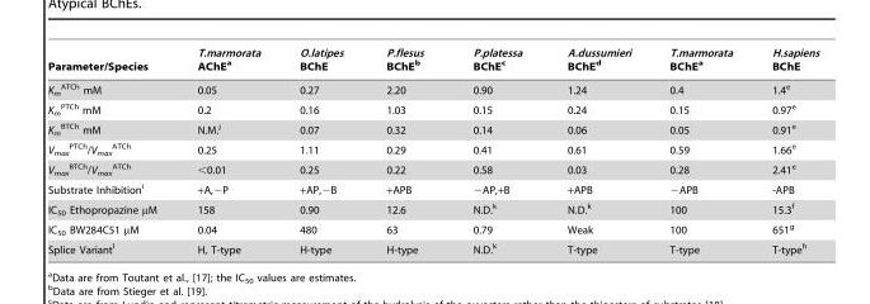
<table><thead><tr><td>Parameter/Species</td><td>T.marmorata AChE<sup>a</sup></td><td>O.latipes BChE</td><td>P.flesus BChE<sup>b</sup></td><td>P.platessa BChE<sup>c</sup></td><td>A.dussumieri BChE<sup>d</sup></td><td>T.marmorata BChE<sup>a</sup></td><td>H.sapiens BChE</td></tr></thead><tbody><tr><td>K<sub>m</sub> <sup>ATCh</sup> mM</td><td>0.05</td><td>0.27</td><td>2.20</td><td>0.90</td><td>1.24</td><td>0.4</td><td>1.4<sup>e</sup></td></tr><tr><td>K<sub>m</sub> <sup>PTCh</sup> mM</td><td>0.2</td><td>0.16</td><td>1.03</td><td>0.15</td><td>0.24</td><td>0.15</td><td>0.97<sup>e</sup></td></tr><tr><td>K<sub>m</sub> <sup>BTCh</sup> mM</td><td>N.M.<sup>j</sup></td><td>0.07</td><td>0.32</td><td>0.14</td><td>0.06</td><td>0.05</td><td>0.91<sup>e</sup></td></tr><tr><td>V<sub>max</sub> <sup>PTCh</sup>/V<sub>max</sub> <sup>ATCh</sup></td><td>0.25</td><td>1.11</td><td>0.29</td><td>0.41</td><td>0.61</td><td>0.59</td><td>1.66<sup>e</sup></td></tr><tr><td>V<sub>max</sub> <sup>BTCh</sup>/V<sub>max</sub> <sup>ATCh</sup></td><td>&lt;0.01</td><td>0.25</td><td>0.22</td><td>0.58</td><td>0.03</td><td>0.28</td><td>2.41<sup>e</sup></td></tr><tr><td>Substrate Inhibition<sup>i</sup></td><td>+A,−P</td><td>+AP,−B</td><td>+APB</td><td>−AP,+B</td><td>+APB</td><td>−APB</td><td>-APB</td></tr><tr><td>IC<sub>50</sub> Ethopropazine µM</td><td>158</td><td>0.90</td><td>12.6</td><td>N.D.<sup>k</sup></td><td>N.D.<sup>k</sup></td><td>100</td><td>15.3<sup>f</sup></td></tr><tr><td>IC<sub>50</sub> BW284C51 µM</td><td>0.04</td><td>480</td><td>63</td><td>0.79</td><td>Weak</td><td>100</td><td>651<sup>g</sup></td></tr><tr><td>Splice Variant<sup>l</sup></td><td>H, T-type</td><td>H-type</td><td>H-type</td><td>N.D.<sup>k</sup></td><td>T-type</td><td>T-type</td><td>T-type<sup>h</sup></td></tr></tbody></table>